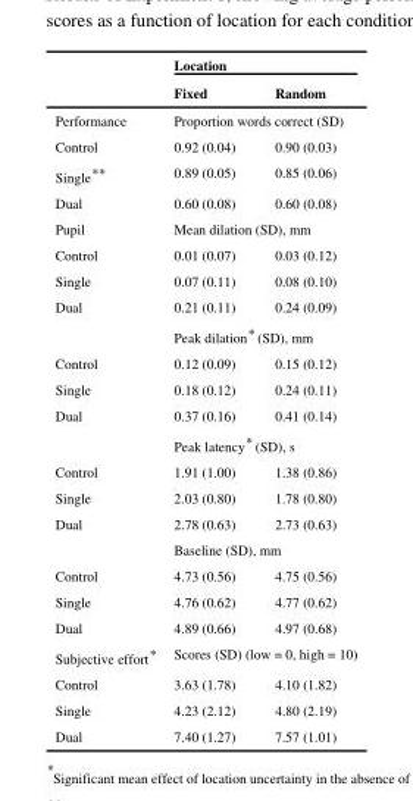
<table><thead><tr><td rowspan="2"></td><td colspan="2">Location</td></tr><tr><td>Fixed</td><td>Random</td></tr></thead><tbody><tr><td>Performance</td><td colspan="2">Proportion words correct (SD)</td></tr><tr><td>Control</td><td>0.92 (0.04)</td><td>0.90 (0.03)</td></tr><tr><td>Single**</td><td>0.89 (0.05)</td><td>0.85 (0.06)</td></tr><tr><td>Dual</td><td>0.60 (0.08)</td><td>0.60 (0.08)</td></tr><tr><td>Pupil</td><td colspan="2">Mean dilation (SD), mm</td></tr><tr><td>Control</td><td>0.01 (0.07)</td><td>0.03 (0.12)</td></tr><tr><td>Single</td><td>0.07 (0.11)</td><td>0.08 (0.10)</td></tr><tr><td rowspan="2">Dual</td><td>0.21 (0.11)</td><td>0.24 (0.09)</td></tr><tr><td colspan="2">Peak dilation* (SD), mm</td></tr><tr><td>Control</td><td>0.12 (0.09)</td><td>0.15 (0.12)</td></tr><tr><td>Single</td><td>0.18 (0.12)</td><td>0.24 (0.11)</td></tr><tr><td rowspan="2">Dual</td><td>0.37 (0.16)</td><td>0.41 (0.14)</td></tr><tr><td colspan="2">Peak latency* (SD), s</td></tr><tr><td>Control</td><td>1.91 (1.00)</td><td>1.38 (0.86)</td></tr><tr><td>Single</td><td>2.03 (0.80)</td><td>1.78 (0.80)</td></tr><tr><td rowspan="2">Dual</td><td>2.78 (0.63)</td><td>2.73 (0.63)</td></tr><tr><td colspan="2">Baseline (SD), mm</td></tr><tr><td>Control</td><td>4.73 (0.56)</td><td>4.75 (0.56)</td></tr><tr><td>Single</td><td>4.76 (0.62)</td><td>4.77 (0.62)</td></tr><tr><td>Dual</td><td>4.89 (0.66)</td><td>4.97 (0.68)</td></tr><tr><td>Subjective effort*</td><td colspan="2">Scores (SD) (low = 0, high = 10)</td></tr><tr><td>Control</td><td>3.63 (1.78)</td><td>4.10 (1.82)</td></tr><tr><td>Single</td><td>4.23 (2.12)</td><td>4.80 (2.19)</td></tr><tr><td>Dual</td><td>7.40 (1.27)</td><td>7.57 (1.01)</td></tr></tbody></table>